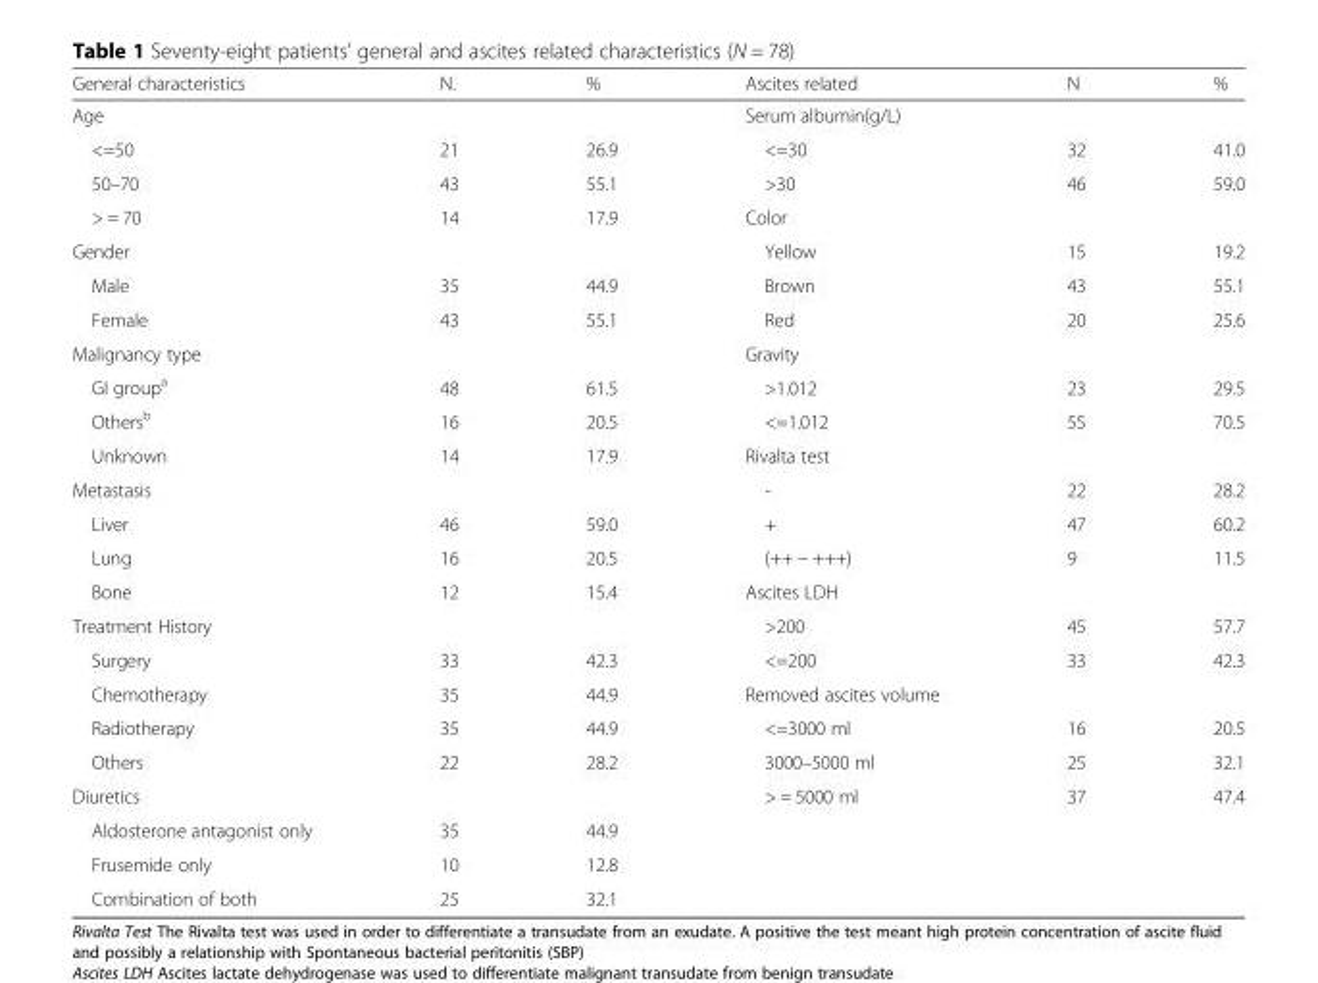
<table><thead><tr><td>General characteristics</td><td>N.</td><td>%</td><td>Ascites related</td><td>N</td><td>%</td></tr></thead><tbody><tr><td>Age</td><td></td><td></td><td>Serum albumin(g/L)</td><td></td><td></td></tr><tr><td>&lt;=50</td><td>21</td><td>26.9</td><td>&lt;=30</td><td>32</td><td>41.0</td></tr><tr><td>50–70</td><td>43</td><td>55.1</td><td>&gt;30</td><td>46</td><td>59.0</td></tr><tr><td>&gt; = 70</td><td>14</td><td>17.9</td><td>Color</td><td></td><td></td></tr><tr><td>Gender</td><td></td><td></td><td>Yellow</td><td>15</td><td>19.2</td></tr><tr><td>Male</td><td>35</td><td>44.9</td><td>Brown</td><td>43</td><td>55.1</td></tr><tr><td>Female</td><td>43</td><td>55.1</td><td>Red</td><td>20</td><td>25.6</td></tr><tr><td>Malignancy type</td><td></td><td></td><td>Gravity</td><td></td><td></td></tr><tr><td>GI group<sup>a</sup></td><td>48</td><td>61.5</td><td>&gt;1.012</td><td>23</td><td>29.5</td></tr><tr><td>Others<sup>b</sup></td><td>16</td><td>20.5</td><td>&lt;=1.012</td><td>55</td><td>70.5</td></tr><tr><td>Unknown</td><td>14</td><td>17.9</td><td>Rivalta test</td><td></td><td></td></tr><tr><td>Metastasis</td><td></td><td></td><td>-</td><td>22</td><td>28.2</td></tr><tr><td>Liver</td><td>46</td><td>59.0</td><td>+</td><td>47</td><td>60.2</td></tr><tr><td>Lung</td><td>16</td><td>20.5</td><td>(++ − +++)</td><td>9</td><td>11.5</td></tr><tr><td>Bone</td><td>12</td><td>15.4</td><td>Ascites LDH</td><td></td><td></td></tr><tr><td>Treatment History</td><td></td><td></td><td>&gt;200</td><td>45</td><td>57.7</td></tr><tr><td>Surgery</td><td>33</td><td>42.3</td><td>&lt;=200</td><td>33</td><td>42.3</td></tr><tr><td>Chemotherapy</td><td>35</td><td>44.9</td><td>Removed ascites volume</td><td></td><td></td></tr><tr><td>Radiotherapy</td><td>35</td><td>44.9</td><td>&lt;=3000 ml</td><td>16</td><td>20.5</td></tr><tr><td>Others</td><td>22</td><td>28.2</td><td>3000–5000 ml</td><td>25</td><td>32.1</td></tr><tr><td>Diuretics</td><td></td><td></td><td>&gt; = 5000 ml</td><td>37</td><td>47.4</td></tr><tr><td>Aldosterone antagonist only</td><td>35</td><td>44.9</td><td></td><td></td><td></td></tr><tr><td>Frusemide only</td><td>10</td><td>12.8</td><td></td><td></td><td></td></tr><tr><td>Combination of both</td><td>25</td><td>32.1</td><td></td><td></td><td></td></tr></tbody></table>